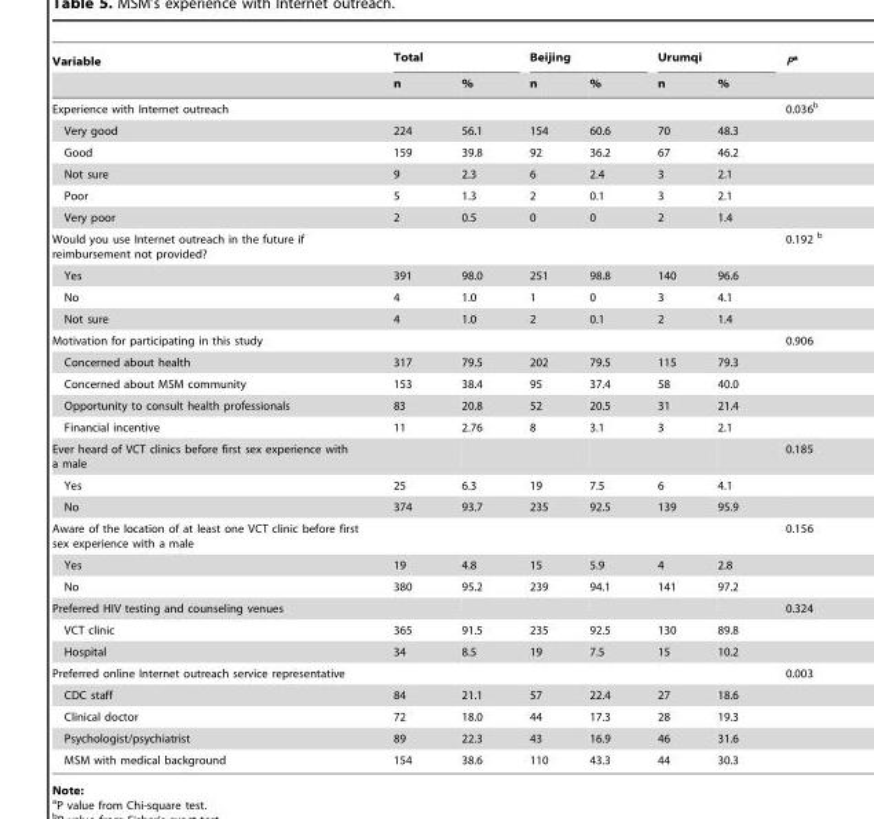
<table><thead><tr><td rowspan="2">Variable</td><td colspan="2">Total</td><td colspan="2">Beijing</td><td colspan="2">Urumqi</td><td rowspan="2">Pa</td></tr><tr><td>n</td><td>%</td><td>n</td><td>%</td><td>n</td><td>%</td></tr></thead><tbody><tr><td>Experience with Internet outreach</td><td></td><td></td><td></td><td></td><td></td><td></td><td>0.036<sup>b</sup></td></tr><tr><td>Very good</td><td>224</td><td>56.1</td><td>154</td><td>60.6</td><td>70</td><td>48.3</td><td></td></tr><tr><td>Good</td><td>159</td><td>39.8</td><td>92</td><td>36.2</td><td>67</td><td>46.2</td><td></td></tr><tr><td>Not sure</td><td>9</td><td>2.3</td><td>6</td><td>2.4</td><td>3</td><td>2.1</td><td></td></tr><tr><td>Poor</td><td>5</td><td>1.3</td><td>2</td><td>0.1</td><td>3</td><td>2.1</td><td></td></tr><tr><td>Very poor</td><td>2</td><td>0.5</td><td>0</td><td>0</td><td>2</td><td>1.4</td><td></td></tr><tr><td>Would you use Internet outreach in the future if reimbursement not provided?</td><td></td><td></td><td></td><td></td><td></td><td></td><td>0.192 b</td></tr><tr><td>Yes</td><td>391</td><td>98.0</td><td>251</td><td>98.8</td><td>140</td><td>96.6</td><td></td></tr><tr><td>No</td><td>4</td><td>1.0</td><td>1</td><td>0</td><td>3</td><td>4.1</td><td></td></tr><tr><td>Not sure</td><td>4</td><td>1.0</td><td>2</td><td>0.1</td><td>2</td><td>1.4</td><td></td></tr><tr><td>Motivation for participating in this study</td><td></td><td></td><td></td><td></td><td></td><td></td><td>0.906</td></tr><tr><td>Concerned about health</td><td>317</td><td>79.5</td><td>202</td><td>79.5</td><td>115</td><td>79.3</td><td></td></tr><tr><td>Concerned about MSM community</td><td>153</td><td>38.4</td><td>95</td><td>37.4</td><td>58</td><td>40.0</td><td></td></tr><tr><td>Opportunity to consult health professionals</td><td>83</td><td>20.8</td><td>52</td><td>20.5</td><td>31</td><td>21.4</td><td></td></tr><tr><td>Financial incentive</td><td>11</td><td>2.76</td><td>8</td><td>3.1</td><td>3</td><td>2.1</td><td></td></tr><tr><td>Ever heard of VCT clinics before first sex experience with a male</td><td></td><td></td><td></td><td></td><td></td><td></td><td>0.185</td></tr><tr><td>Yes</td><td>25</td><td>6.3</td><td>19</td><td>7.5</td><td>6</td><td>4.1</td><td></td></tr><tr><td>No</td><td>374</td><td>93.7</td><td>235</td><td>92.5</td><td>139</td><td>95.9</td><td></td></tr><tr><td>Aware of the location of at least one VCT clinic before first sex experience with a male</td><td></td><td></td><td></td><td></td><td></td><td></td><td>0.156</td></tr><tr><td>Yes</td><td>19</td><td>4.8</td><td>15</td><td>5.9</td><td>4</td><td>2.8</td><td></td></tr><tr><td>No</td><td>380</td><td>95.2</td><td>239</td><td>94.1</td><td>141</td><td>97.2</td><td></td></tr><tr><td>Preferred HIV testing and counseling venues</td><td></td><td></td><td></td><td></td><td></td><td></td><td>0.324</td></tr><tr><td>VCT clinic</td><td>365</td><td>91.5</td><td>235</td><td>92.5</td><td>130</td><td>89.8</td><td></td></tr><tr><td>Hospital</td><td>34</td><td>8.5</td><td>19</td><td>7.5</td><td>15</td><td>10.2</td><td></td></tr><tr><td>Preferred online Internet outreach service representative</td><td></td><td></td><td></td><td></td><td></td><td></td><td>0.003</td></tr><tr><td>CDC staff</td><td>84</td><td>21.1</td><td>57</td><td>22.4</td><td>27</td><td>18.6</td><td></td></tr><tr><td>Clinical doctor</td><td>72</td><td>18.0</td><td>44</td><td>17.3</td><td>28</td><td>19.3</td><td></td></tr><tr><td>Psychologist/psychiatrist</td><td>89</td><td>22.3</td><td>43</td><td>16.9</td><td>46</td><td>31.6</td><td></td></tr><tr><td>MSM with medical background</td><td>154</td><td>38.6</td><td>110</td><td>43.3</td><td>44</td><td>30.3</td><td></td></tr></tbody></table>